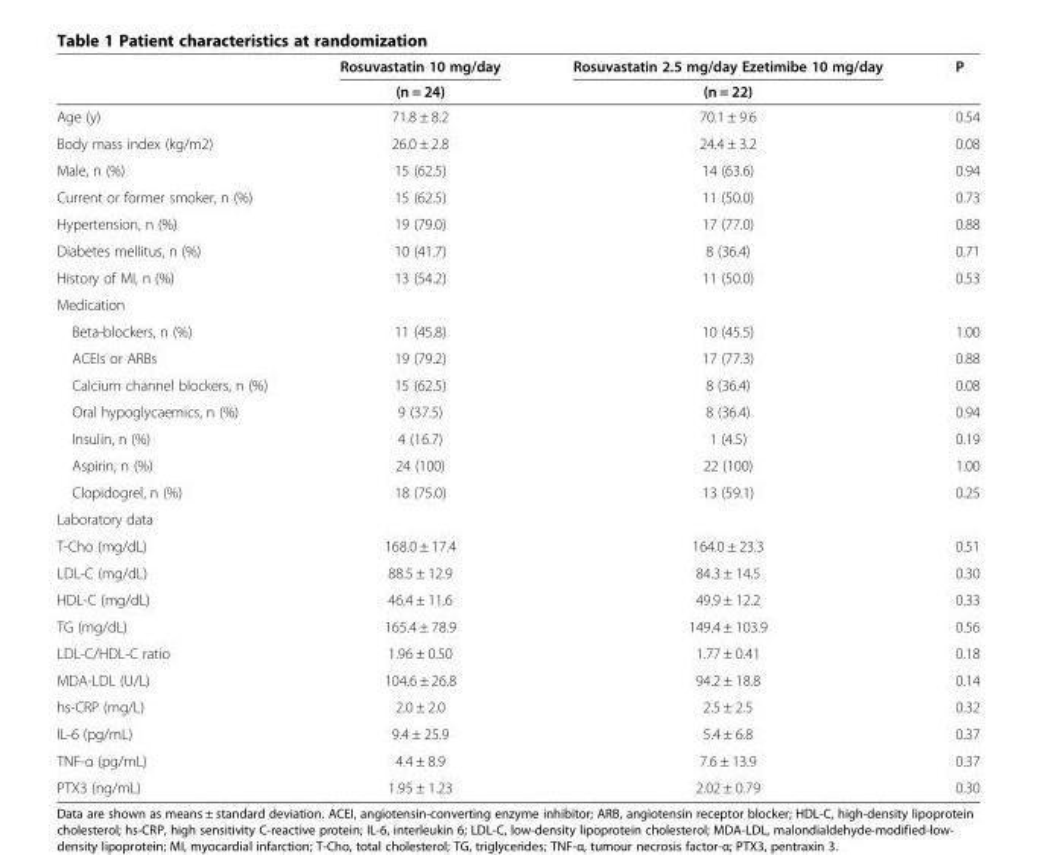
<table><thead><tr><td rowspan="2"></td><td rowspan="2">Rosuvastatin 10 mg/day (n = 24)</td><td rowspan="2">Rosuvastatin 2.5 mg/day Ezetimibe 10 mg/day (n = 22)</td><td rowspan="2">P</td></tr><tr></tr></thead><tbody><tr><td>Age (y)</td><td>71.8 ± 8.2</td><td>70.1 ± 9.6</td><td>0.54</td></tr><tr><td>Body mass index (kg/m2)</td><td>26.0 ± 2.8</td><td>24.4 ± 3.2</td><td>0.08</td></tr><tr><td>Male, n (%)</td><td>15 (62.5)</td><td>14 (63.6)</td><td>0.94</td></tr><tr><td>Current or former smoker, n (%)</td><td>15 (62.5)</td><td>11 (50.0)</td><td>0.73</td></tr><tr><td>Hypertension, n (%)</td><td>19 (79.0)</td><td>17 (77.0)</td><td>0.88</td></tr><tr><td>Diabetes mellitus, n (%)</td><td>10 (41.7)</td><td>8 (36.4)</td><td>0.71</td></tr><tr><td>History of MI, n (%)</td><td>13 (54.2)</td><td>11 (50.0)</td><td>0.53</td></tr><tr><td colspan="4">Medication</td></tr><tr><td>Beta-blockers, n (%)</td><td>11 (45.8)</td><td>10 (45.5)</td><td>1.00</td></tr><tr><td>ACEIs or ARBs</td><td>19 (79.2)</td><td>17 (77.3)</td><td>0.88</td></tr><tr><td>Calcium channel blockers, n (%)</td><td>15 (62.5)</td><td>8 (36.4)</td><td>0.08</td></tr><tr><td>Oral hypoglycaemics, n (%)</td><td>9 (37.5)</td><td>8 (36.4)</td><td>0.94</td></tr><tr><td>Insulin, n (%)</td><td>4 (16.7)</td><td>1 (4.5)</td><td>0.19</td></tr><tr><td>Aspirin, n (%)</td><td>24 (100)</td><td>22 (100)</td><td>1.00</td></tr><tr><td>Clopidogrel, n (%)</td><td>18 (75.0)</td><td>13 (59.1)</td><td>0.25</td></tr><tr><td colspan="4">Laboratory data</td></tr><tr><td>T-Cho (mg/dL)</td><td>168.0 ± 17.4</td><td>164.0 ± 23.3</td><td>0.51</td></tr><tr><td>LDL-C (mg/dL)</td><td>88.5 ± 12.9</td><td>84.3 ± 14.5</td><td>0.30</td></tr><tr><td>HDL-C (mg/dL)</td><td>46.4 ± 11.6</td><td>49.9 ± 12.2</td><td>0.33</td></tr><tr><td>TG (mg/dL)</td><td>165.4 ± 78.9</td><td>149.4 ± 103.9</td><td>0.56</td></tr><tr><td>LDL-C/HDL-C ratio</td><td>1.96 ± 0.50</td><td>1.77 ± 0.41</td><td>0.18</td></tr><tr><td>MDA-LDL (U/L)</td><td>104.6 ± 26.8</td><td>94.2 ± 18.8</td><td>0.14</td></tr><tr><td>hs-CRP (mg/L)</td><td>2.0 ± 2.0</td><td>2.5 ± 2.5</td><td>0.32</td></tr><tr><td>IL-6 (pg/mL)</td><td>9.4 ± 25.9</td><td>5.4 ± 6.8</td><td>0.37</td></tr><tr><td>TNF-α (pg/mL)</td><td>4.4 ± 8.9</td><td>7.6 ± 13.9</td><td>0.37</td></tr><tr><td>PTX3 (ng/mL)</td><td>1.95 ± 1.23</td><td>2.02 ± 0.79</td><td>0.30</td></tr></tbody></table>